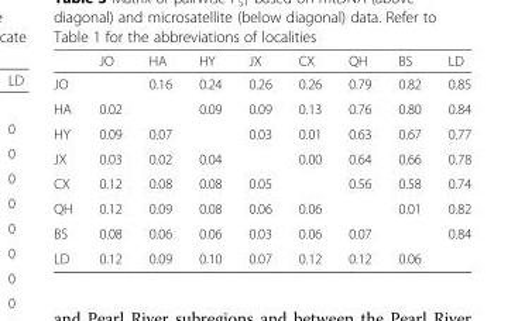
<table><thead><tr><td></td><td>JO</td><td>HA</td><td>HY</td><td>JX</td><td>CX</td><td>QH</td><td>BS</td><td>LD</td></tr></thead><tbody><tr><td>JO</td><td></td><td>0.16</td><td>0.24</td><td>0.26</td><td>0.26</td><td>0.79</td><td>0.82</td><td>0.85</td></tr><tr><td>HA</td><td>0.02</td><td></td><td>0.09</td><td>0.09</td><td>0.13</td><td>0.76</td><td>0.80</td><td>0.84</td></tr><tr><td>HY</td><td>0.09</td><td>0.07</td><td></td><td>0.03</td><td>0.01</td><td>0.63</td><td>0.67</td><td>0.77</td></tr><tr><td>JX</td><td>0.03</td><td>0.02</td><td>0.04</td><td></td><td>0.00</td><td>0.64</td><td>0.66</td><td>0.78</td></tr><tr><td>CX</td><td>0.12</td><td>0.08</td><td>0.08</td><td>0.05</td><td></td><td>0.56</td><td>0.58</td><td>0.74</td></tr><tr><td>QH</td><td>0.12</td><td>0.09</td><td>0.08</td><td>0.06</td><td>0.06</td><td></td><td>0.01</td><td>0.82</td></tr><tr><td>BS</td><td>0.08</td><td>0.06</td><td>0.06</td><td>0.03</td><td>0.06</td><td>0.07</td><td></td><td>0.84</td></tr><tr><td>LD</td><td>0.12</td><td>0.09</td><td>0.10</td><td>0.07</td><td>0.12</td><td>0.12</td><td>0.06</td><td></td></tr></tbody></table>